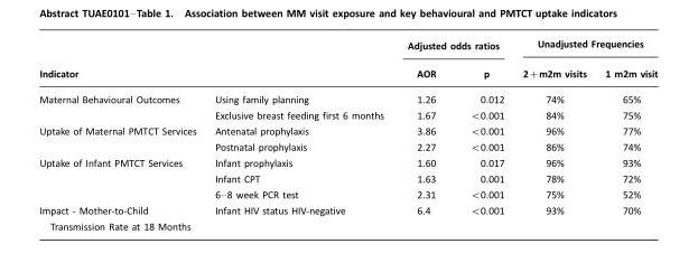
<table><thead><tr><td></td><td></td><td colspan="2">Adjusted odds ratios</td><td colspan="2">Unadjusted Frequencies</td></tr><tr><td colspan="2">Indicator</td><td>AOR</td><td>p</td><td>2+m2m visits</td><td>1 m2m visit</td></tr></thead><tbody><tr><td rowspan="2">Maternal Behavioural Outcomes</td><td>Using family planning</td><td>1.26</td><td>0.012</td><td>74%</td><td>65%</td></tr><tr><td>Exclusive breast feeding first 6 months</td><td>1.67</td><td>&lt;0.001</td><td>84%</td><td>75%</td></tr><tr><td rowspan="2">Uptake of Maternal PMTCT Services</td><td>Antenatal prophylaxis</td><td>3.86</td><td>&lt;0.001</td><td>96%</td><td>77%</td></tr><tr><td>Postnatal prophylaxis</td><td>2.27</td><td>&lt;0.001</td><td>86%</td><td>74%</td></tr><tr><td rowspan="3">Uptake of Infant PMTCT Services</td><td>Infant prophylaxis</td><td>1.60</td><td>0.017</td><td>96%</td><td>93%</td></tr><tr><td>Infant CPT</td><td>1.63</td><td>0.001</td><td>78%</td><td>72%</td></tr><tr><td>6–8 week PCR test</td><td>2.31</td><td>&lt;0.001</td><td>75%</td><td>52%</td></tr><tr><td>Impact - Mother-to-Child Transmission Rate at 18 Months</td><td>Infant HIV status HIV-negative</td><td>6.4</td><td>&lt;0.001</td><td>93%</td><td>70%</td></tr></tbody></table>